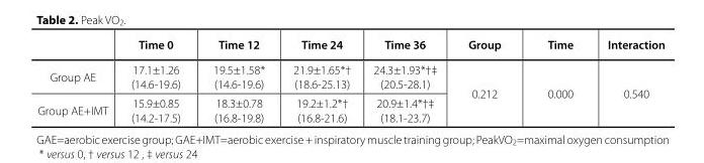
<table><thead><tr><td></td><td>Time 0</td><td>Time 12</td><td>Time 24</td><td>Time 36</td><td>Group</td><td>Time</td><td>Interaction</td></tr></thead><tbody><tr><td>Group AE</td><td>17.1±1.26 (14.6-19.6)</td><td>19.5±1.58* (14.6-19.6)</td><td>21.9±1.65*† (18.6-25.13)</td><td>24.3±1.93*†‡ (20.5-28.1)</td><td rowspan="2">0.212</td><td rowspan="2">0.000</td><td rowspan="2">0.540</td></tr><tr><td>Group AE+IMT</td><td>15.9±0.85 (14.2-17.5)</td><td>18.3±0.78 (16.8-19.8)</td><td>19.2±1.2*† (16.8-21.6)</td><td>20.9±1.4*†‡ (18.1-23.7)</td></tr></tbody></table>